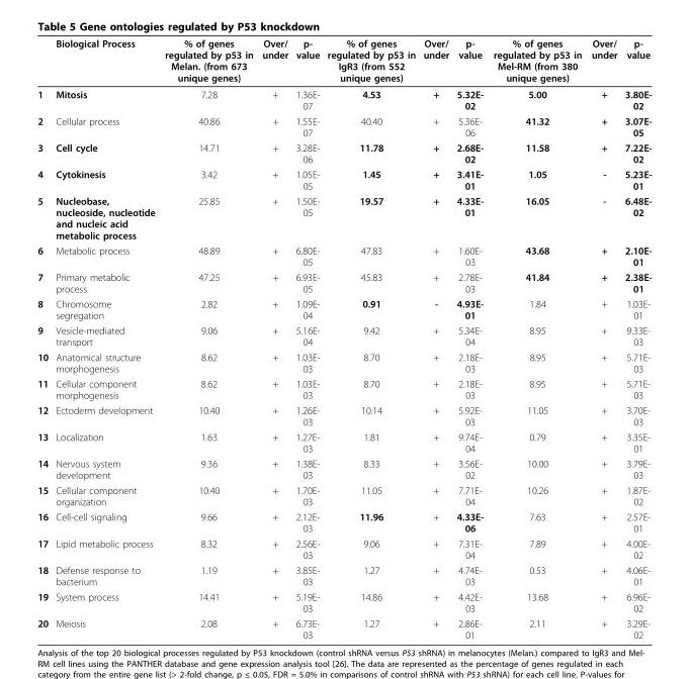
<table><thead><tr><td></td><td>Biological Process</td><td>% of genes regulated by p53 in Melan. (from 673 unique genes)</td><td>Over/ under</td><td>p- value</td><td>% of genes regulated by p53 in IgR3 (from 552 unique genes)</td><td>Over/ under</td><td>p- value</td><td>% of genes regulated by p53 in Mel-RM (from 380 unique genes)</td><td>Over/ under</td><td>p- value</td></tr></thead><tbody><tr><td>1</td><td>Mitosis</td><td>7.28</td><td>+</td><td>1.36E- 07</td><td>4.53</td><td>+</td><td>5.32E- 02</td><td>5.00</td><td>+</td><td>3.80E- 02</td></tr><tr><td>2</td><td>Cellular process</td><td>40.86</td><td>+</td><td>1.55E- 07</td><td>40.40</td><td>+</td><td>5.36E- 06</td><td>41.32</td><td>+</td><td>3.07E- 05</td></tr><tr><td>3</td><td>Cell cycle</td><td>14.71</td><td>+</td><td>3.28E- 06</td><td>11.78</td><td>+</td><td>2.68E- 02</td><td>11.58</td><td>+</td><td>7.22E- 02</td></tr><tr><td>4</td><td>Cytokinesis</td><td>3.42</td><td>+</td><td>1.05E- 05</td><td>1.45</td><td>+</td><td>3.41E- 01</td><td>1.05</td><td>-</td><td>5.23E- 01</td></tr><tr><td>5</td><td>Nucleobase, nucleoside, nucleotide and nucleic acid metabolic process</td><td>25.85</td><td>+</td><td>1.50E- 05</td><td>19.57</td><td>+</td><td>4.33E- 01</td><td>16.05</td><td>-</td><td>6.48E- 02</td></tr><tr><td>6</td><td>Metabolic process</td><td>48.89</td><td>+</td><td>6.80E- 05</td><td>47.83</td><td>+</td><td>1.60E- 03</td><td>43.68</td><td>+</td><td>2.10E- 01</td></tr><tr><td>7</td><td>Primary metabolic process</td><td>47.25</td><td>+</td><td>6.93E- 05</td><td>45.83</td><td>+</td><td>2.78E- 03</td><td>41.84</td><td>+</td><td>2.38E- 01</td></tr><tr><td>8</td><td>Chromosome segregation</td><td>2.82</td><td>+</td><td>1.09E- 04</td><td>0.91</td><td>-</td><td>4.93E- 01</td><td>1.84</td><td>+</td><td>1.03E- 01</td></tr><tr><td>9</td><td>Vesicle-mediated transport</td><td>9.06</td><td>+</td><td>5.16E- 04</td><td>9.42</td><td>+</td><td>5.34E- 04</td><td>8.95</td><td>+</td><td>9.33E- 03</td></tr><tr><td>10</td><td>Anatomical structure morphogenesis</td><td>8.62</td><td>+</td><td>1.03E- 03</td><td>8.70</td><td>+</td><td>2.18E- 03</td><td>8.95</td><td>+</td><td>5.71E- 03</td></tr><tr><td>11</td><td>Cellular component morphogenesis</td><td>8.62</td><td>+</td><td>1.03E- 03</td><td>8.70</td><td>+</td><td>2.18E- 03</td><td>8.95</td><td>+</td><td>5.71E- 03</td></tr><tr><td>12</td><td>Ectoderm development</td><td>10.40</td><td>+</td><td>1.26E- 03</td><td>10.14</td><td>+</td><td>5.92E- 03</td><td>11.05</td><td>+</td><td>3.70E- 03</td></tr><tr><td>13</td><td>Localization</td><td>1.63</td><td>+</td><td>1.27E- 03</td><td>1.81</td><td>+</td><td>9.74E- 04</td><td>0.79</td><td>+</td><td>3.35E- 01</td></tr><tr><td>14</td><td>Nervous system development</td><td>9.36</td><td>+</td><td>1.38E- 03</td><td>8.33</td><td>+</td><td>3.56E- 02</td><td>10.00</td><td>+</td><td>3.79E- 03</td></tr><tr><td>15</td><td>Cellular component organization</td><td>10.40</td><td>+</td><td>1.70E- 03</td><td>11.05</td><td>+</td><td>7.71E- 04</td><td>10.26</td><td>+</td><td>1.87E- 02</td></tr><tr><td>16</td><td>Cell-cell signaling</td><td>9.66</td><td>+</td><td>2.12E- 03</td><td>11.96</td><td>+</td><td>4.33E- 06</td><td>7.63</td><td>+</td><td>2.57E- 01</td></tr><tr><td>17</td><td>Lipid metabolic process</td><td>8.32</td><td>+</td><td>2.56E- 03</td><td>9.06</td><td>+</td><td>7.31E- 04</td><td>7.89</td><td>+</td><td>4.00E- 02</td></tr><tr><td>18</td><td>Defense response to bacterium</td><td>1.19</td><td>+</td><td>3.85E- 03</td><td>1.27</td><td>+</td><td>4.74E- 03</td><td>0.53</td><td>+</td><td>4.06E- 01</td></tr><tr><td>19</td><td>System process</td><td>14.41</td><td>+</td><td>5.19E- 03</td><td>14.86</td><td>+</td><td>4.42E- 03</td><td>13.68</td><td>+</td><td>6.96E- 02</td></tr><tr><td>20</td><td>Meiosis</td><td>2.08</td><td>+</td><td>6.73E- 03</td><td>1.27</td><td>+</td><td>2.86E- 01</td><td>2.11</td><td>+</td><td>3.29E- 02</td></tr></tbody></table>